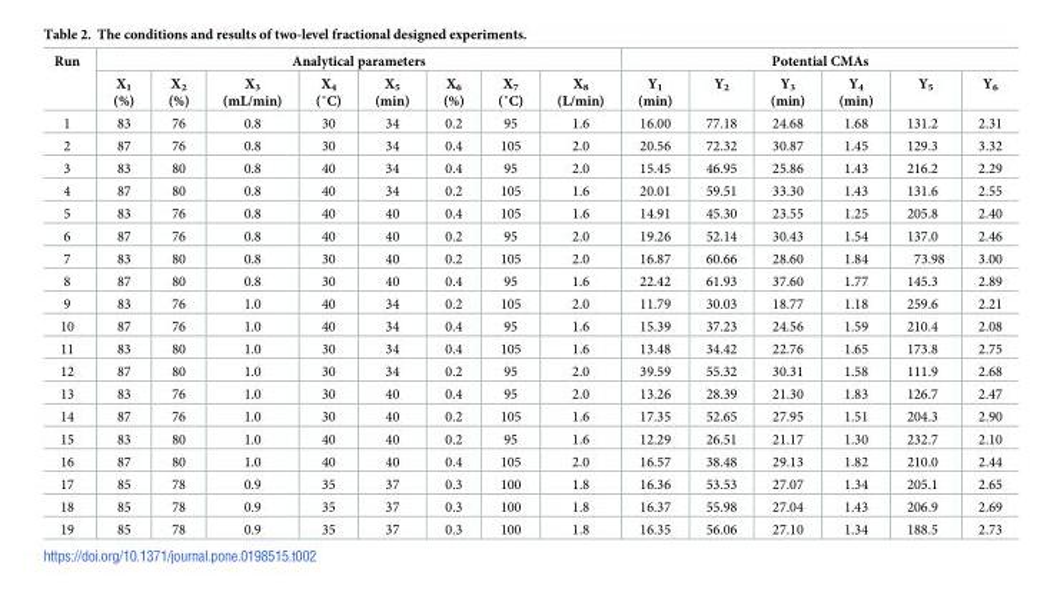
<table><thead><tr><td rowspan="2">Run</td><td colspan="8">Analytical parameters</td><td colspan="6">Potential CMAs</td></tr><tr><td>X<sub>1</sub> (%)</td><td>X<sub>2</sub> (%)</td><td>X<sub>3</sub> (mL/min)</td><td>X4 (˚C)</td><td>X<sub>5</sub> (min)</td><td>X<sub>6</sub> (%)</td><td>X7 (˚C)</td><td>X<sub>8</sub> (L/min)</td><td>Y<sub>1</sub> (min)</td><td>Y<sub>2</sub></td><td>Y<sub>3</sub> (min)</td><td>Y<sub>4</sub> (min)</td><td>Y<sub>5</sub></td><td>Y<sub>6</sub></td></tr></thead><tbody><tr><td>1</td><td>83</td><td>76</td><td>0.8</td><td>30</td><td>34</td><td>0.2</td><td>95</td><td>1.6</td><td>16.00</td><td>77.18</td><td>24.68</td><td>1.68</td><td>131.2</td><td>2.31</td></tr><tr><td>2</td><td>87</td><td>76</td><td>0.8</td><td>30</td><td>34</td><td>0.4</td><td>105</td><td>2.0</td><td>20.56</td><td>72.32</td><td>30.87</td><td>1.45</td><td>129.3</td><td>3.32</td></tr><tr><td>3</td><td>83</td><td>80</td><td>0.8</td><td>40</td><td>34</td><td>0.4</td><td>95</td><td>2.0</td><td>15.45</td><td>46.95</td><td>25.86</td><td>1.43</td><td>216.2</td><td>2.29</td></tr><tr><td>4</td><td>87</td><td>80</td><td>0.8</td><td>40</td><td>34</td><td>0.2</td><td>105</td><td>1.6</td><td>20.01</td><td>59.51</td><td>33.30</td><td>1.43</td><td>131.6</td><td>2.55</td></tr><tr><td>5</td><td>83</td><td>76</td><td>0.8</td><td>40</td><td>40</td><td>0.4</td><td>105</td><td>1.6</td><td>14.91</td><td>45.30</td><td>23.55</td><td>1.25</td><td>205.8</td><td>2.40</td></tr><tr><td>6</td><td>87</td><td>76</td><td>0.8</td><td>40</td><td>40</td><td>0.2</td><td>95</td><td>2.0</td><td>19.26</td><td>52.14</td><td>30.43</td><td>1.54</td><td>137.0</td><td>2.46</td></tr><tr><td>7</td><td>83</td><td>80</td><td>0.8</td><td>30</td><td>40</td><td>0.2</td><td>105</td><td>2.0</td><td>16.87</td><td>60.66</td><td>28.60</td><td>1.84</td><td>73.98</td><td>3.00</td></tr><tr><td>8</td><td>87</td><td>80</td><td>0.8</td><td>30</td><td>40</td><td>0.4</td><td>95</td><td>1.6</td><td>22.42</td><td>61.93</td><td>37.60</td><td>1.77</td><td>145.3</td><td>2.89</td></tr><tr><td>9</td><td>83</td><td>76</td><td>1.0</td><td>40</td><td>34</td><td>0.2</td><td>105</td><td>2.0</td><td>11.79</td><td>30.03</td><td>18.77</td><td>1.18</td><td>259.6</td><td>2.21</td></tr><tr><td>10</td><td>87</td><td>76</td><td>1.0</td><td>40</td><td>34</td><td>0.4</td><td>95</td><td>1.6</td><td>15.39</td><td>37.23</td><td>24.56</td><td>1.59</td><td>210.4</td><td>2.08</td></tr><tr><td>11</td><td>83</td><td>80</td><td>1.0</td><td>30</td><td>34</td><td>0.4</td><td>105</td><td>1.6</td><td>13.48</td><td>34.42</td><td>22.76</td><td>1.65</td><td>173.8</td><td>2.75</td></tr><tr><td>12</td><td>87</td><td>80</td><td>1.0</td><td>30</td><td>34</td><td>0.2</td><td>95</td><td>2.0</td><td>39.59</td><td>55.32</td><td>30.31</td><td>1.58</td><td>111.9</td><td>2.68</td></tr><tr><td>13</td><td>83</td><td>76</td><td>1.0</td><td>30</td><td>40</td><td>0.4</td><td>95</td><td>2.0</td><td>13.26</td><td>28.39</td><td>21.30</td><td>1.83</td><td>126.7</td><td>2.47</td></tr><tr><td>14</td><td>87</td><td>76</td><td>1.0</td><td>30</td><td>40</td><td>0.2</td><td>105</td><td>1.6</td><td>17.35</td><td>52.65</td><td>27.95</td><td>1.51</td><td>204.3</td><td>2.90</td></tr><tr><td>15</td><td>83</td><td>80</td><td>1.0</td><td>40</td><td>40</td><td>0.2</td><td>95</td><td>1.6</td><td>12.29</td><td>26.51</td><td>21.17</td><td>1.30</td><td>232.7</td><td>2.10</td></tr><tr><td>16</td><td>87</td><td>80</td><td>1.0</td><td>40</td><td>40</td><td>0.4</td><td>105</td><td>2.0</td><td>16.57</td><td>38.48</td><td>29.13</td><td>1.82</td><td>210.0</td><td>2.44</td></tr><tr><td>17</td><td>85</td><td>78</td><td>0.9</td><td>35</td><td>37</td><td>0.3</td><td>100</td><td>1.8</td><td>16.36</td><td>53.53</td><td>27.07</td><td>1.34</td><td>205.1</td><td>2.65</td></tr><tr><td>18</td><td>85</td><td>78</td><td>0.9</td><td>35</td><td>37</td><td>0.3</td><td>100</td><td>1.8</td><td>16.37</td><td>55.98</td><td>27.04</td><td>1.43</td><td>206.9</td><td>2.69</td></tr><tr><td>19</td><td>85</td><td>78</td><td>0.9</td><td>35</td><td>37</td><td>0.3</td><td>100</td><td>1.8</td><td>16.35</td><td>56.06</td><td>27.10</td><td>1.34</td><td>188.5</td><td>2.73</td></tr></tbody></table>